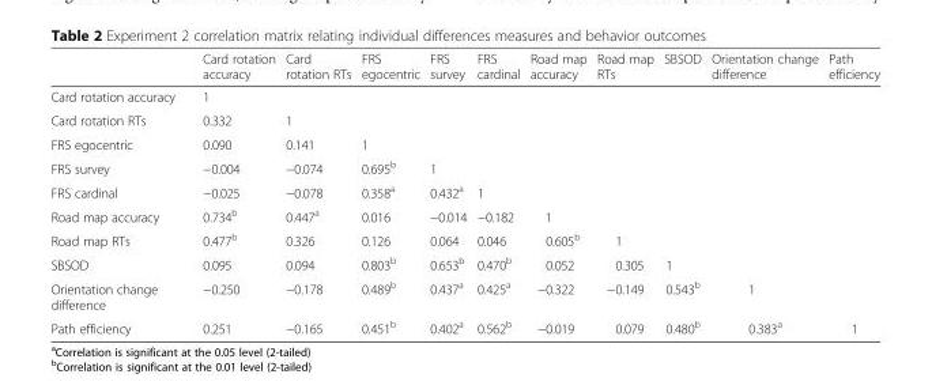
<table><thead><tr><td></td><td>Card rotation accuracy</td><td>Card rotation RTs</td><td>FRS egocentric</td><td>FRS survey</td><td>FRS cardinal</td><td>Road map accuracy</td><td>Road map RTs</td><td>SBSOD</td><td>Orientation change difference</td><td>Path efficiency</td></tr></thead><tbody><tr><td>Card rotation accuracy</td><td>1</td><td></td><td></td><td></td><td></td><td></td><td></td><td></td><td></td><td></td></tr><tr><td>Card rotation RTs</td><td>0.332</td><td>1</td><td></td><td></td><td></td><td></td><td></td><td></td><td></td><td></td></tr><tr><td>FRS egocentric</td><td>0.090</td><td>0.141</td><td>1</td><td></td><td></td><td></td><td></td><td></td><td></td><td></td></tr><tr><td>FRS survey</td><td>−0.004</td><td>−0.074</td><td>0.695<sup>b</sup></td><td>1</td><td></td><td></td><td></td><td></td><td></td><td></td></tr><tr><td>FRS cardinal</td><td>−0.025</td><td>−0.078</td><td>0.358<sup>a</sup></td><td>0.432<sup>a</sup></td><td>1</td><td></td><td></td><td></td><td></td><td></td></tr><tr><td>Road map accuracy</td><td>0.734<sup>b</sup></td><td>0.447<sup>a</sup></td><td>0.016</td><td>−0.014</td><td>−0.182</td><td>1</td><td></td><td></td><td></td><td></td></tr><tr><td>Road map RTs</td><td>0.477<sup>b</sup></td><td>0.326</td><td>0.126</td><td>0.064</td><td>0.046</td><td>0.605<sup>b</sup></td><td>1</td><td></td><td></td><td></td></tr><tr><td>SBSOD</td><td>0.095</td><td>0.094</td><td>0.803<sup>b</sup></td><td>0.653<sup>b</sup></td><td>0.470<sup>b</sup></td><td>0.052</td><td>0.305</td><td>1</td><td></td><td></td></tr><tr><td>Orientation change difference</td><td>−0.250</td><td>−0.178</td><td>0.489<sup>b</sup></td><td>0.437<sup>a</sup></td><td>0.425<sup>a</sup></td><td>−0.322</td><td>−0.149</td><td>0.543<sup>b</sup></td><td>1</td><td></td></tr><tr><td>Path efficiency</td><td>0.251</td><td>−0.165</td><td>0.451<sup>b</sup></td><td>0.402<sup>a</sup></td><td>0.562<sup>b</sup></td><td>−0.019</td><td>0.079</td><td>0.480<sup>b</sup></td><td>0.383<sup>a</sup></td><td>1</td></tr></tbody></table>